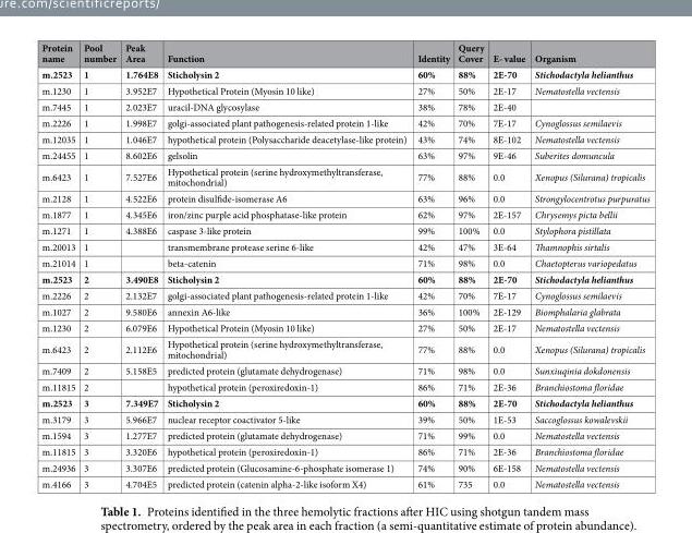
<table><thead><tr><td>Protein name</td><td>Pool number</td><td>Peak Area</td><td>Function</td><td>Identity</td><td>Query Cover</td><td>E- value</td><td>Organism</td></tr></thead><tbody><tr><td>m.2523</td><td>1</td><td>1.764E8</td><td>Sticholysin 2</td><td>60%</td><td>88%</td><td>2E-70</td><td>Stichodactyla helianthus</td></tr><tr><td>m.1230</td><td>1</td><td>3.952E7</td><td>Hypothetical Protein (Myosin 10 like)</td><td>27%</td><td>50%</td><td>2E-17</td><td>Nematostella vectensis</td></tr><tr><td>m.7445</td><td>1</td><td>2.023E7</td><td>uracil-DNA glycosylase</td><td>38%</td><td>78%</td><td>2E-40</td><td></td></tr><tr><td>m.2226</td><td>1</td><td>1.998E7</td><td>golgi-associated plant pathogenesis-related protein 1-like</td><td>42%</td><td>70%</td><td>7E-17</td><td>Cynoglossus semilaevis</td></tr><tr><td>m.12035</td><td>1</td><td>1.046E7</td><td>hypothetical protein (Polysaccharide deacetylase-like protein)</td><td>43%</td><td>74%</td><td>8E-102</td><td>Nematostella vectensis</td></tr><tr><td>m.24455</td><td>1</td><td>8.602E6</td><td>gelsolin</td><td>63%</td><td>97%</td><td>9E-46</td><td>Suberites domuncula</td></tr><tr><td>m.6423</td><td>1</td><td>7.527E6</td><td>Hypothetical protein (serine hydroxymethyltransferase, mitochondrial)</td><td>77%</td><td>88%</td><td>0.0</td><td>Xenopus (Silurana) tropicalis</td></tr><tr><td>m.2128</td><td>1</td><td>4.522E6</td><td>protein disulfide-isomerase A6</td><td>63%</td><td>96%</td><td>0.0</td><td>Strongylocentrotus purpuratus</td></tr><tr><td>m.1877</td><td>1</td><td>4.345E6</td><td>iron/zinc purple acid phosphatase-like protein</td><td>62%</td><td>97%</td><td>2E-157</td><td>Chrysemys picta bellii</td></tr><tr><td>m.1271</td><td>1</td><td>4.388E6</td><td>caspase 3-like protein</td><td>99%</td><td>100%</td><td>0.0</td><td>Stylophora pistillata</td></tr><tr><td>m.20013</td><td>1</td><td></td><td>transmembrane protease serine 6-like</td><td>42%</td><td>47%</td><td>3E-64</td><td>Thamnophis sirtalis</td></tr><tr><td>m.21014</td><td>1</td><td></td><td>beta-catenin</td><td>71%</td><td>98%</td><td>0.0</td><td>Chaetopterus variopedatus</td></tr><tr><td>m.2523</td><td>2</td><td>3.490E8</td><td>Sticholysin 2</td><td>60%</td><td>88%</td><td>2E-70</td><td>Stichodactyla helianthus</td></tr><tr><td>m.2226</td><td>2</td><td>2.132E7</td><td>golgi-associated plant pathogenesis-related protein 1-like</td><td>42%</td><td>70%</td><td>7E-17</td><td>Cynoglossus semilaevis</td></tr><tr><td>m.1027</td><td>2</td><td>9.580E6</td><td>annexin A6-like</td><td>36%</td><td>100%</td><td>2E-129</td><td>Biomphalaria glabrata</td></tr><tr><td>m.1230</td><td>2</td><td>6.079E6</td><td>Hypothetical Protein (Myosin 10 like)</td><td>27%</td><td>50%</td><td>2E-17</td><td>Nematostella vectensis</td></tr><tr><td>m.6423</td><td>2</td><td>2.112E6</td><td>Hypothetical protein (serine hydroxymethyltransferase, mitochondrial)</td><td>77%</td><td>88%</td><td>0.0</td><td>Xenopus (Silurana) tropicalis</td></tr><tr><td>m.7409</td><td>2</td><td>5.158E5</td><td>predicted protein (glutamate dehydrogenase)</td><td>71%</td><td>98%</td><td>0.0</td><td>Sunxiuqinia dokdonensis</td></tr><tr><td>m.11815</td><td>2</td><td></td><td>hypothetical protein (peroxiredoxin-1)</td><td>86%</td><td>71%</td><td>2E-36</td><td>Branchiostoma floridae</td></tr><tr><td>m.2523</td><td>3</td><td>7.349E7</td><td>Sticholysin 2</td><td>60%</td><td>88%</td><td>2E-70</td><td>Stichodactyla helianthus</td></tr><tr><td>m.3179</td><td>3</td><td>5.966E7</td><td>nuclear receptor coactivator 5-like</td><td>39%</td><td>50%</td><td>1E-53</td><td>Saccoglossus kowalevskii</td></tr><tr><td>m.1594</td><td>3</td><td>1.277E7</td><td>predicted protein (glutamate dehydrogenase)</td><td>71%</td><td>99%</td><td>0.0</td><td>Nematostella vectensis</td></tr><tr><td>m.11815</td><td>3</td><td>3.320E6</td><td>hypothetical protein (peroxiredoxin-1)</td><td>86%</td><td>71%</td><td>2E-36</td><td>Branchiostoma floridae</td></tr><tr><td>m.24936</td><td>3</td><td>3.307E6</td><td>predicted protein (Glucosamine-6-phosphate isomerase 1)</td><td>74%</td><td>90%</td><td>6E-158</td><td>Nematostella vectensis</td></tr><tr><td>m.4166</td><td>3</td><td>4.704E5</td><td>predicted protein (catenin alpha-2-like isoform X4)</td><td>61%</td><td>735</td><td>0.0</td><td>Nematostella vectensis</td></tr></tbody></table>